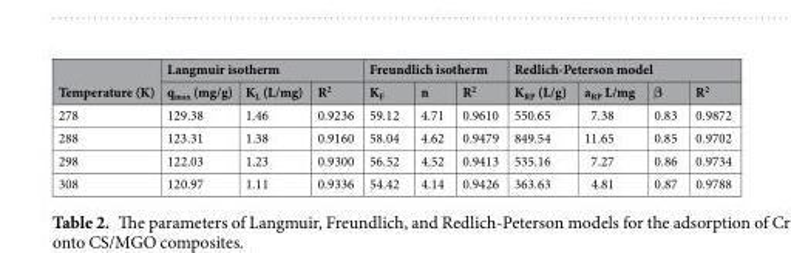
<table><thead><tr><td rowspan="2">Temperature (K)</td><td colspan="3">Langmuir isotherm</td><td colspan="3">Freundlich isotherm</td><td colspan="4">Redlich-Peterson model</td></tr><tr><td>q<sub>max</sub> (mg/g)</td><td>K<sub>L</sub> (L/mg)</td><td>R<sup>2</sup></td><td>K<sub>F</sub></td><td>n</td><td>R<sup>2</sup></td><td>K<sub>RP</sub> (L/g)</td><td>a<sub>RP</sub> L/mg</td><td>β</td><td>R<sup>2</sup></td></tr></thead><tbody><tr><td>278</td><td>129.38</td><td>1.46</td><td>0.9236</td><td>59.12</td><td>4.71</td><td>0.9610</td><td>550.65</td><td>7.38</td><td>0.83</td><td>0.9872</td></tr><tr><td>288</td><td>123.31</td><td>1.38</td><td>0.9160</td><td>58.04</td><td>4.62</td><td>0.9479</td><td>849.54</td><td>11.65</td><td>0.85</td><td>0.9702</td></tr><tr><td>298</td><td>122.03</td><td>1.23</td><td>0.9300</td><td>56.52</td><td>4.52</td><td>0.9413</td><td>535.16</td><td>7.27</td><td>0.86</td><td>0.9734</td></tr><tr><td>308</td><td>120.97</td><td>1.11</td><td>0.9336</td><td>54.42</td><td>4.14</td><td>0.9426</td><td>363.63</td><td>4.81</td><td>0.87</td><td>0.9788</td></tr></tbody></table>